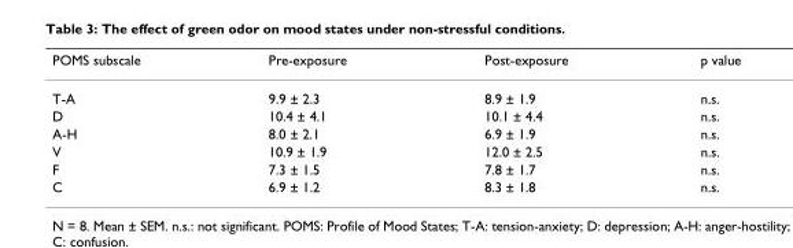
<table><thead><tr><td>POMS subscale</td><td>Pre-exposure</td><td>Post-exposure</td><td>p value</td></tr></thead><tbody><tr><td>T-A</td><td>9.9 ± 2.3</td><td>8.9 ± 1.9</td><td>n.s.</td></tr><tr><td>D</td><td>10.4 ± 4.1</td><td>10.1 ± 4.4</td><td>n.s.</td></tr><tr><td>A-H</td><td>8.0 ± 2.1</td><td>6.9 ± 1.9</td><td>n.s.</td></tr><tr><td>V</td><td>10.9 ± 1.9</td><td>12.0 ± 2.5</td><td>n.s.</td></tr><tr><td>F</td><td>7.3 ± 1.5</td><td>7.8 ± 1.7</td><td>n.s.</td></tr><tr><td>C</td><td>6.9 ± 1.2</td><td>8.3 ± 1.8</td><td>n.s.</td></tr></tbody></table>